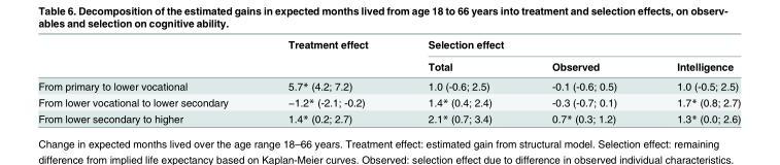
<table><thead><tr><td rowspan="2"></td><td rowspan="2">Treatment effect</td><td colspan="3">Selection effect</td></tr><tr><td>Total</td><td>Observed</td><td>Intelligence</td></tr></thead><tbody><tr><td>From primary to lower vocational</td><td>5.7* (4.2; 7.2)</td><td>1.0 (-0.6; 2.5)</td><td>-0.1 (-0.6; 0.5)</td><td>1.0 (-0.5; 2.5)</td></tr><tr><td>From lower vocational to lower secondary</td><td>−1.2* (-2.1; -0.2)</td><td>1.4* (0.4; 2.4)</td><td>-0.3 (-0.7; 0.1)</td><td>1.7* (0.8; 2.7)</td></tr><tr><td>From lower secondary to higher</td><td>1.4* (0.2; 2.7)</td><td>2.1* (0.7; 3.4)</td><td>0.7* (0.3; 1.2)</td><td>1.3* (0.0; 2.6)</td></tr></tbody></table>